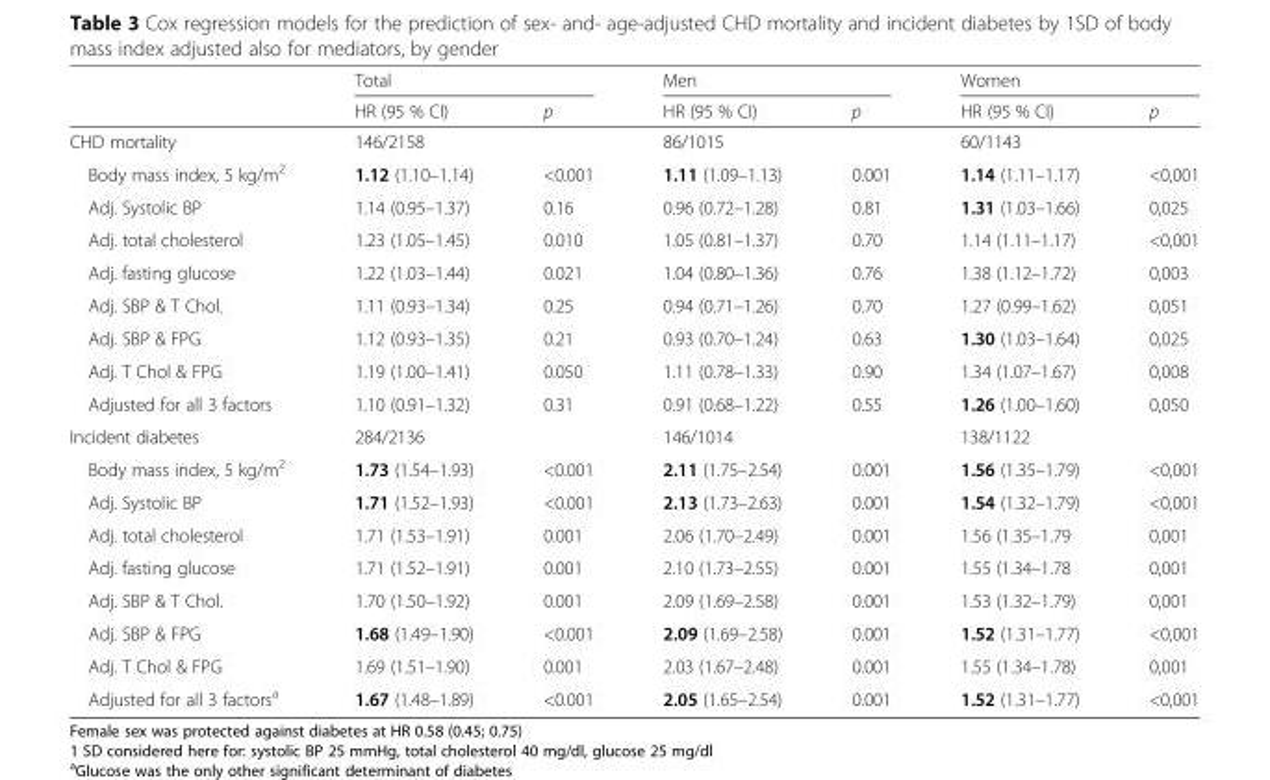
<table><thead><tr><td rowspan="2"></td><td colspan="2">Total</td><td colspan="2">Men</td><td colspan="2">Women</td></tr><tr><td>HR (95 % CI)</td><td>p</td><td>HR (95 % CI)</td><td>p</td><td>HR (95 % CI)</td><td>p</td></tr></thead><tbody><tr><td>CHD mortality</td><td>146/2158</td><td></td><td>86/1015</td><td></td><td>60/1143</td><td></td></tr><tr><td>Body mass index, 5 kg/m<sup>2</sup></td><td>1.12 (1.10–1.14)</td><td>&lt;0.001</td><td>1.11 (1.09–1.13)</td><td>0.001</td><td>1.14 (1.11–1.17)</td><td>&lt;0,001</td></tr><tr><td>Adj. Systolic BP</td><td>1.14 (0.95–1.37)</td><td>0.16</td><td>0.96 (0.72–1.28)</td><td>0.81</td><td>1.31 (1.03–1.66)</td><td>0,025</td></tr><tr><td>Adj. total cholesterol</td><td>1.23 (1.05–1.45)</td><td>0.010</td><td>1.05 (0.81–1.37)</td><td>0.70</td><td>1.14 (1.11–1.17)</td><td>&lt;0,001</td></tr><tr><td>Adj. fasting glucose</td><td>1.22 (1.03–1.44)</td><td>0.021</td><td>1.04 (0.80–1.36)</td><td>0.76</td><td>1.38 (1.12–1.72)</td><td>0,003</td></tr><tr><td>Adj. SBP &amp; T Chol.</td><td>1.11 (0.93–1.34)</td><td>0.25</td><td>0.94 (0.71–1.26)</td><td>0.70</td><td>1.27 (0.99–1.62)</td><td>0,051</td></tr><tr><td>Adj. SBP &amp; FPG</td><td>1.12 (0.93–1.35)</td><td>0.21</td><td>0.93 (0.70–1.24)</td><td>0.63</td><td>1.30 (1.03–1.64)</td><td>0,025</td></tr><tr><td>Adj. T Chol &amp; FPG</td><td>1.19 (1.00–1.41)</td><td>0.050</td><td>1.11 (0.78–1.33)</td><td>0.90</td><td>1.34 (1.07–1.67)</td><td>0,008</td></tr><tr><td>Adjusted for all 3 factors</td><td>1.10 (0.91–1.32)</td><td>0.31</td><td>0.91 (0.68–1.22)</td><td>0.55</td><td>1.26 (1.00–1.60)</td><td>0,050</td></tr><tr><td>Incident diabetes</td><td>284/2136</td><td></td><td>146/1014</td><td></td><td>138/1122</td><td></td></tr><tr><td>Body mass index, 5 kg/m<sup>2</sup></td><td>1.73 (1.54–1.93)</td><td>&lt;0.001</td><td>2.11 (1.75–2.54)</td><td>0.001</td><td>1.56 (1.35–1.79)</td><td>&lt;0,001</td></tr><tr><td>Adj. Systolic BP</td><td>1.71 (1.52–1.93)</td><td>&lt;0.001</td><td>2.13 (1.73–2.63)</td><td>0.001</td><td>1.54 (1.32–1.79)</td><td>&lt;0,001</td></tr><tr><td>Adj. total cholesterol</td><td>1.71 (1.53–1.91)</td><td>0.001</td><td>2.06 (1.70–2.49)</td><td>0.001</td><td>1.56 (1.35–1.79</td><td>0,001</td></tr><tr><td>Adj. fasting glucose</td><td>1.71 (1.52–1.91)</td><td>0.001</td><td>2.10 (1.73–2.55)</td><td>0.001</td><td>1.55 (1.34–1.78</td><td>0,001</td></tr><tr><td>Adj. SBP &amp; T Chol.</td><td>1.70 (1.50–1.92)</td><td>0.001</td><td>2.09 (1.69–2.58)</td><td>0.001</td><td>1.53 (1.32–1.79)</td><td>0,001</td></tr><tr><td>Adj. SBP &amp; FPG</td><td>1.68 (1.49–1.90)</td><td>&lt;0.001</td><td>2.09 (1.69–2.58)</td><td>0.001</td><td>1.52 (1.31–1.77)</td><td>&lt;0,001</td></tr><tr><td>Adj. T Chol &amp; FPG</td><td>1.69 (1.51–1.90)</td><td>0.001</td><td>2.03 (1.67–2.48)</td><td>0.001</td><td>1.55 (1.34–1.78)</td><td>0,001</td></tr><tr><td>Adjusted for all 3 factors<sup>a</sup></td><td>1.67 (1.48–1.89)</td><td>&lt;0.001</td><td>2.05 (1.65–2.54)</td><td>0.001</td><td>1.52 (1.31–1.77)</td><td>&lt;0,001</td></tr></tbody></table>